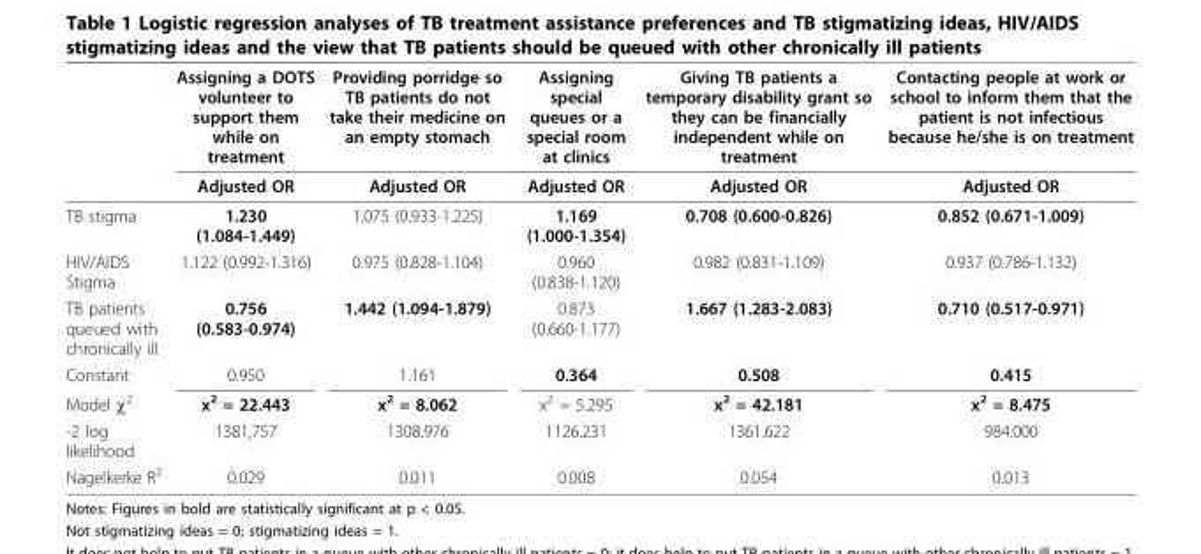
<table><thead><tr><td rowspan="2"></td><td rowspan="2">Assigning a DOTS volunteer to support them while on treatment Adjusted OR</td><td rowspan="2">Providing porridge so TB patients do not take their medicine on an empty stomach Adjusted OR</td><td rowspan="2">Assigning special queues or a special room at clinics Adjusted OR</td><td rowspan="2">Giving TB patients a temporary disability grant so they can be financially independent while on treatment Adjusted OR</td><td rowspan="2">Contacting people at work or school to inform them that the patient is not infectious because he/she is on treatment Adjusted OR</td></tr><tr></tr></thead><tbody><tr><td>TB stigma</td><td>1.230 (1.084-1.449)</td><td>1.075 (0.933-1.225)</td><td>1.169 (1.000-1.354)</td><td>0.708 (0.600-0.826)</td><td>0.852 (0.671-1.009)</td></tr><tr><td>HIV/AIDS Stigma</td><td>1.122 (0.992-1.316)</td><td>0.975 (0.828-1.104)</td><td>0.960 (0.838-1.120)</td><td>0.982 (0.831-1.109)</td><td>0.937 (0.786-1.132)</td></tr><tr><td>TB patients queued with chronically ill</td><td>0.756 (0.583-0.974)</td><td>1.442 (1.094-1.879)</td><td>0.873 (0.660-1.177)</td><td>1.667 (1.283-2.083)</td><td>0.710 (0.517-0.971)</td></tr><tr><td>Constant</td><td>0.950</td><td>1.161</td><td>0.364</td><td>0.508</td><td>0.415</td></tr><tr><td>Model χ<sup>2</sup></td><td>x<sup>2</sup> = 22.443</td><td>x<sup>2</sup> = 8.062</td><td>x<sup>2</sup> = 5.295</td><td>x<sup>2</sup> = 42.181</td><td>x<sup>2</sup> = 8.475</td></tr><tr><td>-2 log likelihood</td><td>1381,757</td><td>1308.976</td><td>1126.231</td><td>1361.622</td><td>984.000</td></tr><tr><td>Nagelkerke R<sup>2</sup></td><td>0.029</td><td>0.011</td><td>0.008</td><td>0.054</td><td>0.013</td></tr></tbody></table>